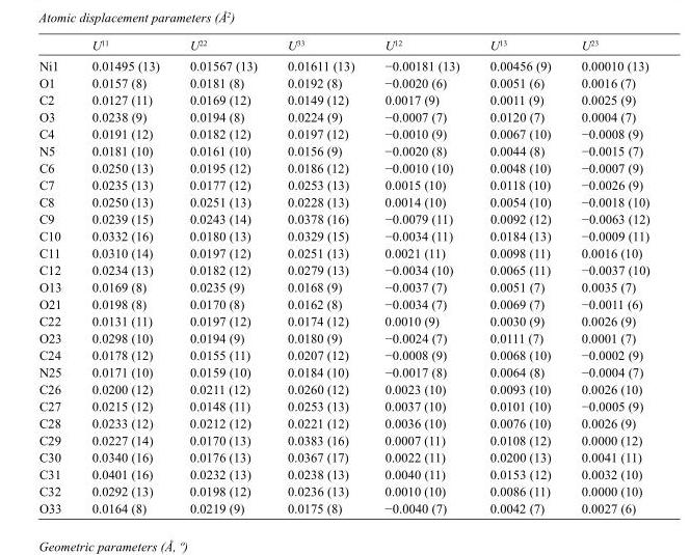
<table><thead><tr><td></td><td>U<sup>11</sup></td><td>U<sup>22</sup></td><td>U<sup>33</sup></td><td>U<sup>12</sup></td><td>U<sup>13</sup></td><td>U<sup>23</sup></td></tr></thead><tbody><tr><td>Ni1</td><td>0.01495 (13)</td><td>0.01567 (13)</td><td>0.01611 (13)</td><td>−0.00181 (13)</td><td>0.00456 (9)</td><td>0.00010 (13)</td></tr><tr><td>O1</td><td>0.0157 (8)</td><td>0.0181 (8)</td><td>0.0192 (8)</td><td>−0.0020 (6)</td><td>0.0051 (6)</td><td>0.0016 (7)</td></tr><tr><td>C2</td><td>0.0127 (11)</td><td>0.0169 (12)</td><td>0.0149 (12)</td><td>0.0017 (9)</td><td>0.0011 (9)</td><td>0.0025 (9)</td></tr><tr><td>O3</td><td>0.0238 (9)</td><td>0.0194 (8)</td><td>0.0224 (9)</td><td>−0.0007 (7)</td><td>0.0120 (7)</td><td>0.0004 (7)</td></tr><tr><td>C4</td><td>0.0191 (12)</td><td>0.0182 (12)</td><td>0.0197 (12)</td><td>−0.0010 (9)</td><td>0.0067 (10)</td><td>−0.0008 (9)</td></tr><tr><td>N5</td><td>0.0181 (10)</td><td>0.0161 (10)</td><td>0.0156 (9)</td><td>−0.0020 (8)</td><td>0.0044 (8)</td><td>−0.0015 (7)</td></tr><tr><td>C6</td><td>0.0250 (13)</td><td>0.0195 (12)</td><td>0.0186 (12)</td><td>−0.0010 (10)</td><td>0.0048 (10)</td><td>−0.0007 (9)</td></tr><tr><td>C7</td><td>0.0235 (13)</td><td>0.0177 (12)</td><td>0.0253 (13)</td><td>0.0015 (10)</td><td>0.0118 (10)</td><td>−0.0026 (9)</td></tr><tr><td>C8</td><td>0.0250 (13)</td><td>0.0251 (13)</td><td>0.0228 (13)</td><td>0.0014 (10)</td><td>0.0054 (10)</td><td>−0.0018 (10)</td></tr><tr><td>C9</td><td>0.0239 (15)</td><td>0.0243 (14)</td><td>0.0378 (16)</td><td>−0.0079 (11)</td><td>0.0092 (12)</td><td>−0.0063 (12)</td></tr><tr><td>C10</td><td>0.0332 (16)</td><td>0.0180 (13)</td><td>0.0329 (15)</td><td>−0.0034 (11)</td><td>0.0184 (13)</td><td>−0.0009 (11)</td></tr><tr><td>C11</td><td>0.0310 (14)</td><td>0.0197 (12)</td><td>0.0251 (13)</td><td>0.0021 (11)</td><td>0.0098 (11)</td><td>0.0016 (10)</td></tr><tr><td>C12</td><td>0.0234 (13)</td><td>0.0182 (12)</td><td>0.0279 (13)</td><td>−0.0034 (10)</td><td>0.0065 (11)</td><td>−0.0037 (10)</td></tr><tr><td>O13</td><td>0.0169 (8)</td><td>0.0235 (9)</td><td>0.0168 (9)</td><td>−0.0037 (7)</td><td>0.0051 (7)</td><td>0.0035 (7)</td></tr><tr><td>O21</td><td>0.0198 (8)</td><td>0.0170 (8)</td><td>0.0162 (8)</td><td>−0.0034 (7)</td><td>0.0069 (7)</td><td>−0.0011 (6)</td></tr><tr><td>C22</td><td>0.0131 (11)</td><td>0.0197 (12)</td><td>0.0174 (12)</td><td>0.0010 (9)</td><td>0.0030 (9)</td><td>0.0026 (9)</td></tr><tr><td>O23</td><td>0.0298 (10)</td><td>0.0194 (9)</td><td>0.0180 (9)</td><td>−0.0024 (7)</td><td>0.0111 (7)</td><td>0.0001 (7)</td></tr><tr><td>C24</td><td>0.0178 (12)</td><td>0.0155 (11)</td><td>0.0207 (12)</td><td>−0.0008 (9)</td><td>0.0068 (10)</td><td>−0.0002 (9)</td></tr><tr><td>N25</td><td>0.0171 (10)</td><td>0.0159 (10)</td><td>0.0184 (10)</td><td>−0.0017 (8)</td><td>0.0064 (8)</td><td>−0.0004 (7)</td></tr><tr><td>C26</td><td>0.0200 (12)</td><td>0.0211 (12)</td><td>0.0260 (12)</td><td>0.0023 (10)</td><td>0.0093 (10)</td><td>0.0026 (10)</td></tr><tr><td>C27</td><td>0.0215 (12)</td><td>0.0148 (11)</td><td>0.0253 (13)</td><td>0.0037 (10)</td><td>0.0101 (10)</td><td>−0.0005 (9)</td></tr><tr><td>C28</td><td>0.0233 (12)</td><td>0.0212 (12)</td><td>0.0221 (12)</td><td>0.0036 (10)</td><td>0.0076 (10)</td><td>0.0026 (9)</td></tr><tr><td>C29</td><td>0.0227 (14)</td><td>0.0170 (13)</td><td>0.0383 (16)</td><td>0.0007 (11)</td><td>0.0108 (12)</td><td>0.0000 (12)</td></tr><tr><td>C30</td><td>0.0340 (16)</td><td>0.0176 (13)</td><td>0.0367 (17)</td><td>0.0022 (11)</td><td>0.0200 (13)</td><td>0.0041 (11)</td></tr><tr><td>C31</td><td>0.0401 (16)</td><td>0.0232 (13)</td><td>0.0238 (13)</td><td>0.0040 (11)</td><td>0.0153 (12)</td><td>0.0032 (10)</td></tr><tr><td>C32</td><td>0.0292 (13)</td><td>0.0198 (12)</td><td>0.0236 (13)</td><td>0.0010 (10)</td><td>0.0086 (11)</td><td>0.0000 (10)</td></tr><tr><td>O33</td><td>0.0164 (8)</td><td>0.0219 (9)</td><td>0.0175 (8)</td><td>−0.0040 (7)</td><td>0.0042 (7)</td><td>0.0027 (6)</td></tr></tbody></table>